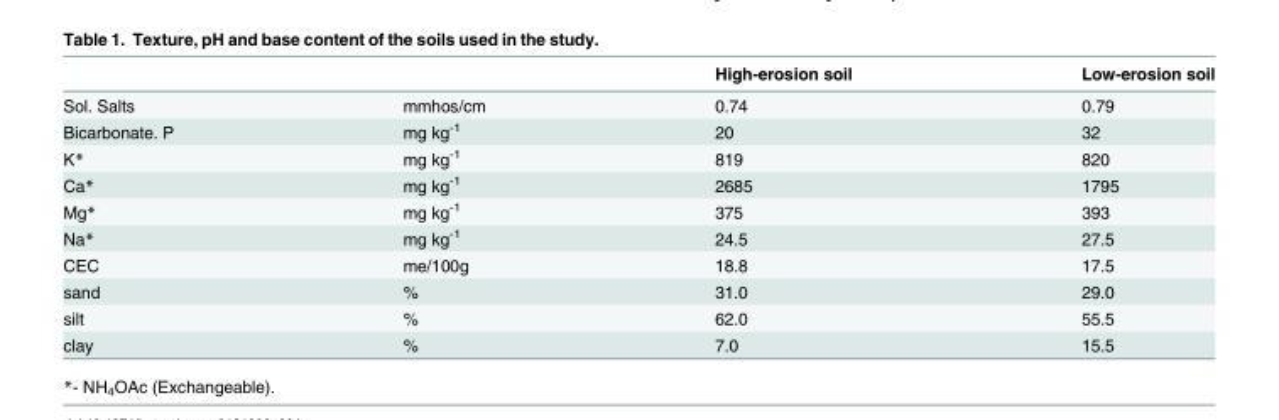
<table><thead><tr><td></td><td></td><td>High-erosion soil</td><td>Low-erosion soil</td></tr></thead><tbody><tr><td>Sol. Salts</td><td>mmhos/cm</td><td>0.74</td><td>0.79</td></tr><tr><td>Bicarbonate. P</td><td>mg kg<sup>-1</sup></td><td>20</td><td>32</td></tr><tr><td>K*</td><td>mg kg<sup>-1</sup></td><td>819</td><td>820</td></tr><tr><td>Ca*</td><td>mg kg<sup>-1</sup></td><td>2685</td><td>1795</td></tr><tr><td>Mg*</td><td>mg kg<sup>-1</sup></td><td>375</td><td>393</td></tr><tr><td>Na*</td><td>mg kg<sup>-1</sup></td><td>24.5</td><td>27.5</td></tr><tr><td>CEC</td><td>me/100g</td><td>18.8</td><td>17.5</td></tr><tr><td>sand</td><td>%</td><td>31.0</td><td>29.0</td></tr><tr><td>silt</td><td>%</td><td>62.0</td><td>55.5</td></tr><tr><td>clay</td><td>%</td><td>7.0</td><td>15.5</td></tr></tbody></table>